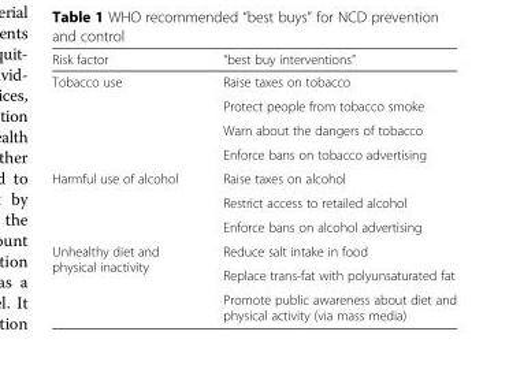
<table><thead><tr><td>Risk factor</td><td>“best buy interventions”</td></tr></thead><tbody><tr><td rowspan="4">Tobacco use</td><td>Raise taxes on tobacco</td></tr><tr><td>Protect people from tobacco smoke</td></tr><tr><td>Warn about the dangers of tobacco</td></tr><tr><td>Enforce bans on tobacco advertising</td></tr><tr><td rowspan="3">Harmful use of alcohol</td><td>Raise taxes on alcohol</td></tr><tr><td>Restrict access to retailed alcohol</td></tr><tr><td>Enforce bans on alcohol advertising</td></tr><tr><td rowspan="3">Unhealthy diet and physical inactivity</td><td>Reduce salt intake in food</td></tr><tr><td>Replace trans-fat with polyunsaturated fat</td></tr><tr><td>Promote public awareness about diet and physical activity (via mass media)</td></tr></tbody></table>